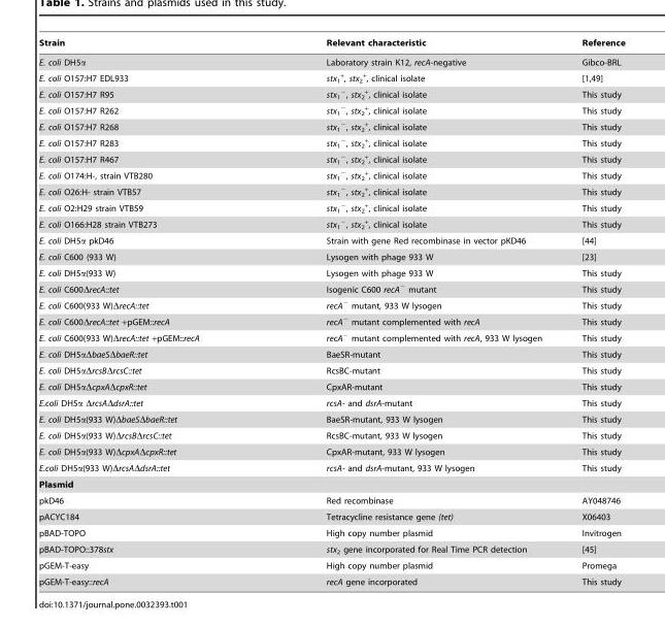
<table><thead><tr><td>Strain</td><td>Relevant characteristic</td><td>Reference</td></tr></thead><tbody><tr><td>E. coli DH5α</td><td>Laboratory strain K12, recA-negative</td><td>Gibco-BRL</td></tr><tr><td>E. coli O157:H7 EDL933</td><td>stx<sub>1</sub> <sup>+</sup>, stx<sub>2</sub> <sup>+</sup>, clinical isolate</td><td>[1,49]</td></tr><tr><td>E. coli O157:H7 R95</td><td>stx<sub>1</sub> <sup>−</sup>, stx<sub>2</sub> <sup>+</sup>, clinical isolate</td><td>This study</td></tr><tr><td>E. coli O157:H7 R262</td><td>stx<sub>1</sub> <sup>−</sup>, stx<sub>2</sub> <sup>+</sup>, clinical isolate</td><td>This study</td></tr><tr><td>E. coli O157:H7 R268</td><td>stx<sub>1</sub> <sup>−</sup>, stx<sub>2</sub> <sup>+</sup>, clinical isolate</td><td>This study</td></tr><tr><td>E. coli O157:H7 R283</td><td>stx<sub>1</sub> <sup>−</sup>, stx<sub>2</sub> <sup>+</sup>, clinical isolate</td><td>This study</td></tr><tr><td>E. coli O157:H7 R467</td><td>stx<sub>1</sub> <sup>−</sup>, stx<sub>2</sub> <sup>+</sup>, clinical isolate</td><td>This study</td></tr><tr><td>E. coli O174:H-, strain VTB280</td><td>stx<sub>1</sub> <sup>−</sup>, stx<sub>2</sub> <sup>+</sup>, clinical isolate</td><td>This study</td></tr><tr><td>E. coli O26:H- strain VTB57</td><td>stx<sub>1</sub> <sup>−</sup>, stx<sub>2</sub> <sup>+</sup>, clinical isolate</td><td>This study</td></tr><tr><td>E. coli O2:H29 strain VTB59</td><td>stx<sub>1</sub> <sup>−</sup>, stx<sub>2</sub> <sup>+</sup>, clinical isolate</td><td>This study</td></tr><tr><td>E. coli O166:H28 strain VTB273</td><td>stx<sub>1</sub> <sup>−</sup>, stx<sub>2</sub> <sup>+</sup>, clinical isolate</td><td>This study</td></tr><tr><td>E. coli DH5α pkD46</td><td>Strain with gene Red recombinase in vector pKD46</td><td>[44]</td></tr><tr><td>E. coli C600 (933 W)</td><td>Lysogen with phage 933 W</td><td>[23]</td></tr><tr><td>E. coli DH5α(933 W)</td><td>Lysogen with phage 933 W</td><td>This study</td></tr><tr><td>E. coli C600ΔrecA::tet</td><td>Isogenic C600 recA<sup>−</sup> mutant</td><td>This study</td></tr><tr><td>E. coli C600(933 W)ΔrecA::tet</td><td>recA<sup>−</sup> mutant, 933 W lysogen</td><td>This study</td></tr><tr><td>E. coli C600ΔrecA::tet +pGEM::recA</td><td>recA<sup>−</sup> mutant complemented with recA</td><td>This study</td></tr><tr><td>E. coli C600(933 W)ΔrecA::tet +pGEM::recA</td><td>recA<sup>−</sup> mutant complemented with recA, 933 W lysogen</td><td>This study</td></tr><tr><td>E. coli DH5αΔbaeSΔbaeR::tet</td><td>BaeSR-mutant</td><td>This study</td></tr><tr><td>E. coli DH5αΔrcsBΔrcsC::tet</td><td>RcsBC-mutant</td><td>This study</td></tr><tr><td>E. coli DH5αΔcpxAΔcpxR::tet</td><td>CpxAR-mutant</td><td>This study</td></tr><tr><td>E.coli DH5α ΔrcsAΔdsrA::tet</td><td>rcsA- and dsrA-mutant</td><td>This study</td></tr><tr><td>E. coli DH5α(933 W)ΔbaeSΔbaeR::tet</td><td>BaeSR-mutant, 933 W lysogen</td><td>This study</td></tr><tr><td>E. coli DH5α(933 W)ΔrcsBΔrcsC::tet</td><td>RcsBC-mutant, 933 W lysogen</td><td>This study</td></tr><tr><td>E. coli DH5α(933 W)ΔcpxAΔcpxR::tet</td><td>CpxAR-mutant, 933 W lysogen</td><td>This study</td></tr><tr><td>E.coli DH5α(933 W)ΔrcsAΔdsrA::tet</td><td>rcsA- and dsrA-mutant, 933 W lysogen</td><td>This study</td></tr><tr><td colspan="3">Plasmid</td></tr><tr><td>pkD46</td><td>Red recombinase</td><td>AY048746</td></tr><tr><td>pACYC184</td><td>Tetracycline resistance gene (tet)</td><td>X06403</td></tr><tr><td>pBAD-TOPO</td><td>High copy number plasmid</td><td>Invitrogen</td></tr><tr><td>pBAD-TOPO::378stx</td><td>stx<sub>2</sub> gene incorporated for Real Time PCR detection</td><td>[45]</td></tr><tr><td>pGEM-T-easy</td><td>High copy number plasmid</td><td>Promega</td></tr><tr><td>pGEM-T-easy::recA</td><td>recA gene incorporated</td><td>This study</td></tr></tbody></table>